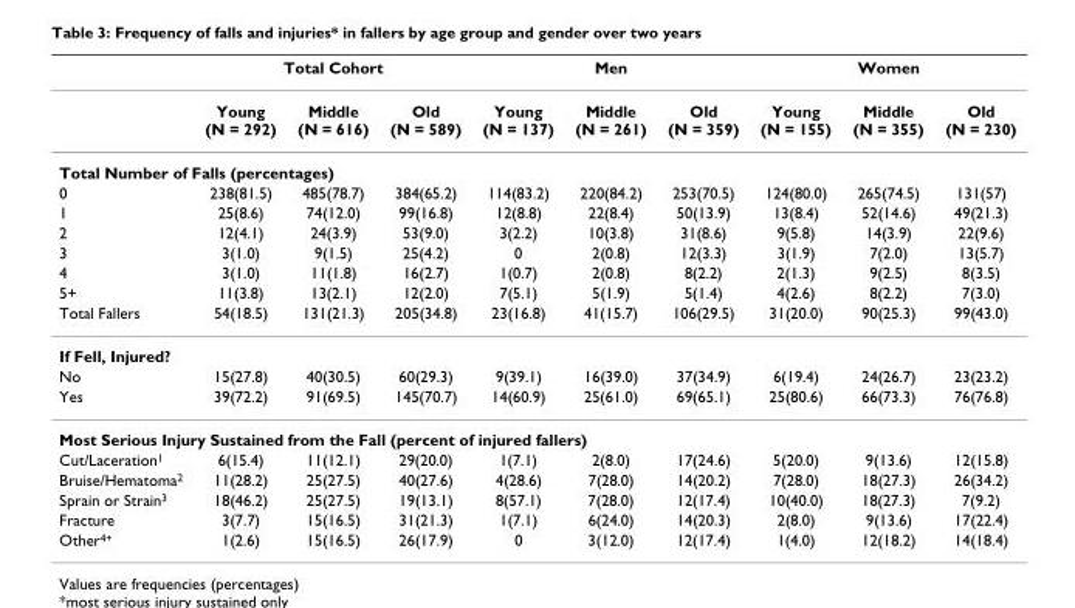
<table><thead><tr><td rowspan="2"></td><td colspan="3">Total Cohort</td><td colspan="3">Men</td><td colspan="3">Women</td></tr><tr><td>Young (N = 292)</td><td>Middle (N = 616)</td><td>Old (N = 589)</td><td>Young (N = 137)</td><td>Middle (N = 261)</td><td>Old (N = 359)</td><td>Young (N = 155)</td><td>Middle (N = 355)</td><td>Old (N = 230)</td></tr></thead><tbody><tr><td colspan="10">Total Number of Falls (percentages)</td></tr><tr><td>0</td><td>238(81.5)</td><td>485(78.7)</td><td>384(65.2)</td><td>114(83.2)</td><td>220(84.2)</td><td>253(70.5)</td><td>124(80.0)</td><td>265(74.5)</td><td>131(57)</td></tr><tr><td>1</td><td>25(8.6)</td><td>74(12.0)</td><td>99(16.8)</td><td>12(8.8)</td><td>22(8.4)</td><td>50(13.9)</td><td>13(8.4)</td><td>52(14.6)</td><td>49(21.3)</td></tr><tr><td>2</td><td>12(4.1)</td><td>24(3.9)</td><td>53(9.0)</td><td>3(2.2)</td><td>10(3.8)</td><td>31(8.6)</td><td>9(5.8)</td><td>14(3.9)</td><td>22(9.6)</td></tr><tr><td>3</td><td>3(1.0)</td><td>9(1.5)</td><td>25(4.2)</td><td>0</td><td>2(0.8)</td><td>12(3.3)</td><td>3(1.9)</td><td>7(2.0)</td><td>13(5.7)</td></tr><tr><td>4</td><td>3(1.0)</td><td>11(1.8)</td><td>16(2.7)</td><td>1(0.7)</td><td>2(0.8)</td><td>8(2.2)</td><td>2(1.3)</td><td>9(2.5)</td><td>8(3.5)</td></tr><tr><td>5+</td><td>11(3.8)</td><td>13(2.1)</td><td>12(2.0)</td><td>7(5.1)</td><td>5(1.9)</td><td>5(1.4)</td><td>4(2.6)</td><td>8(2.2)</td><td>7(3.0)</td></tr><tr><td>Total Fallers</td><td>54(18.5)</td><td>131(21.3)</td><td>205(34.8)</td><td>23(16.8)</td><td>41(15.7)</td><td>106(29.5)</td><td>31(20.0)</td><td>90(25.3)</td><td>99(43.0)</td></tr><tr><td colspan="10">If Fell, Injured?</td></tr><tr><td>No</td><td>15(27.8)</td><td>40(30.5)</td><td>60(29.3)</td><td>9(39.1)</td><td>16(39.0)</td><td>37(34.9)</td><td>6(19.4)</td><td>24(26.7)</td><td>23(23.2)</td></tr><tr><td>Yes</td><td>39(72.2)</td><td>91(69.5)</td><td>145(70.7)</td><td>14(60.9)</td><td>25(61.0)</td><td>69(65.1)</td><td>25(80.6)</td><td>66(73.3)</td><td>76(76.8)</td></tr><tr><td colspan="10">Most Serious Injury Sustained from the Fall (percent of injured fallers)</td></tr><tr><td>Cut/Laceration<sup>1</sup></td><td>6(15.4)</td><td>11(12.1)</td><td>29(20.0)</td><td>1(7.1)</td><td>2(8.0)</td><td>17(24.6)</td><td>5(20.0)</td><td>9(13.6)</td><td>12(15.8)</td></tr><tr><td>Bruise/Hematoma<sup>2</sup></td><td>11(28.2)</td><td>25(27.5)</td><td>40(27.6)</td><td>4(28.6)</td><td>7(28.0)</td><td>14(20.2)</td><td>7(28.0)</td><td>18(27.3)</td><td>26(34.2)</td></tr><tr><td>Sprain or Strain<sup>3</sup></td><td>18(46.2)</td><td>25(27.5)</td><td>19(13.1)</td><td>8(57.1)</td><td>7(28.0)</td><td>12(17.4)</td><td>10(40.0)</td><td>18(27.3)</td><td>7(9.2)</td></tr><tr><td>Fracture</td><td>3(7.7)</td><td>15(16.5)</td><td>31(21.3)</td><td>1(7.1)</td><td>6(24.0)</td><td>14(20.3)</td><td>2(8.0)</td><td>9(13.6)</td><td>17(22.4)</td></tr><tr><td>Other<sup>4+</sup></td><td>1(2.6)</td><td>15(16.5)</td><td>26(17.9)</td><td>0</td><td>3(12.0)</td><td>12(17.4)</td><td>1(4.0)</td><td>12(18.2)</td><td>14(18.4)</td></tr></tbody></table>